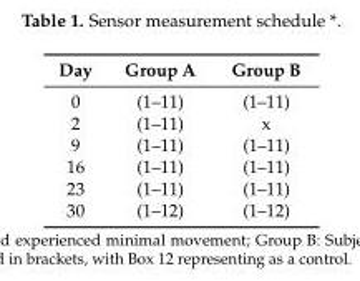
<table><thead><tr><td>Day</td><td>Group A</td><td>Group B</td></tr></thead><tbody><tr><td>0</td><td>(1–11)</td><td>(1–11)</td></tr><tr><td>2</td><td>(1–11)</td><td>x</td></tr><tr><td>9</td><td>(1–11)</td><td>(1–11)</td></tr><tr><td>16</td><td>(1–11)</td><td>(1–11)</td></tr><tr><td>23</td><td>(1–11)</td><td>(1–11)</td></tr><tr><td>30</td><td>(1–12)</td><td>(1–12)</td></tr></tbody></table>